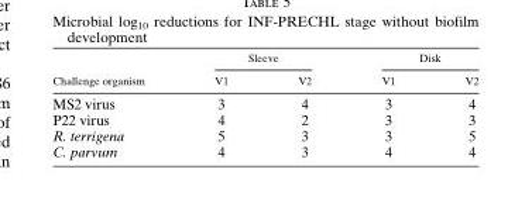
<table><thead><tr><td rowspan="2">Challenge organism</td><td colspan="2">Sleeve</td><td colspan="2">Disk</td></tr><tr><td>V1</td><td>V2</td><td>V1</td><td>V2</td></tr></thead><tbody><tr><td>MS2 virus</td><td>3</td><td>4</td><td>3</td><td>4</td></tr><tr><td>P22 virus</td><td>4</td><td>2</td><td>3</td><td>3</td></tr><tr><td>R. terrigena</td><td>5</td><td>3</td><td>3</td><td>5</td></tr><tr><td>C. parvum</td><td>4</td><td>3</td><td>4</td><td>4</td></tr></tbody></table>